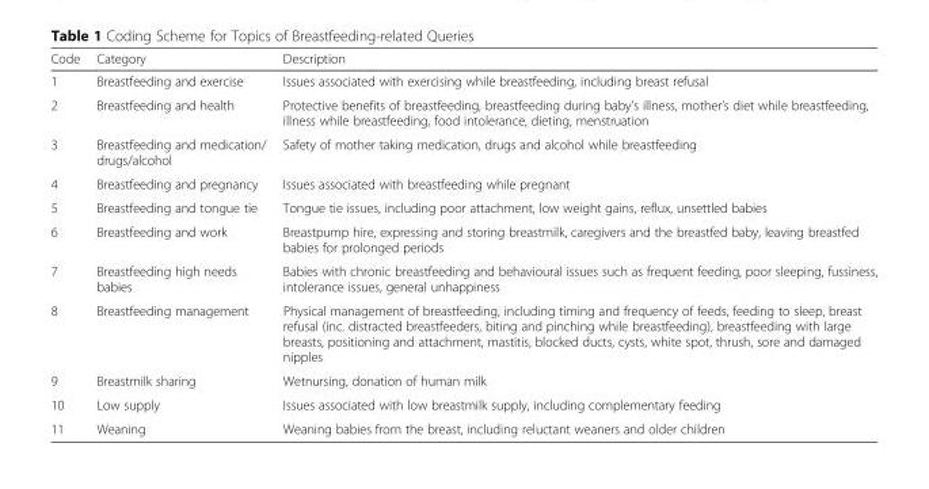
<table><thead><tr><td>Code</td><td>Category</td><td>Description</td></tr></thead><tbody><tr><td>1</td><td>Breastfeeding and exercise</td><td>Issues associated with exercising while breastfeeding, including breast refusal</td></tr><tr><td>2</td><td>Breastfeeding and health</td><td>Protective benefits of breastfeeding, breastfeeding during baby’s illness, mother’s diet while breastfeeding, illness while breastfeeding, food intolerance, dieting, menstruation</td></tr><tr><td>3</td><td>Breastfeeding and medication/ drugs/alcohol</td><td>Safety of mother taking medication, drugs and alcohol while breastfeeding</td></tr><tr><td>4</td><td>Breastfeeding and pregnancy</td><td>Issues associated with breastfeeding while pregnant</td></tr><tr><td>5</td><td>Breastfeeding and tongue tie</td><td>Tongue tie issues, including poor attachment, low weight gains, reflux, unsettled babies</td></tr><tr><td>6</td><td>Breastfeeding and work</td><td>Breastpump hire, expressing and storing breastmilk, caregivers and the breastfed baby, leaving breastfed babies for prolonged periods</td></tr><tr><td>7</td><td>Breastfeeding high needs babies</td><td>Babies with chronic breastfeeding and behavioural issues such as frequent feeding, poor sleeping, fussiness, intolerance issues, general unhappiness</td></tr><tr><td>8</td><td>Breastfeeding management</td><td>Physical management of breastfeeding, including timing and frequency of feeds, feeding to sleep, breast refusal (inc. distracted breastfeeders, biting and pinching while breastfeeding), breastfeeding with large breasts, positioning and attachment, mastitis, blocked ducts, cysts, white spot, thrush, sore and damaged nipples</td></tr><tr><td>9</td><td>Breastmilk sharing</td><td>Wetnursing, donation of human milk</td></tr><tr><td>10</td><td>Low supply</td><td>Issues associated with low breastmilk supply, including complementary feeding</td></tr><tr><td>11</td><td>Weaning</td><td>Weaning babies from the breast, including reluctant weaners and older children</td></tr></tbody></table>